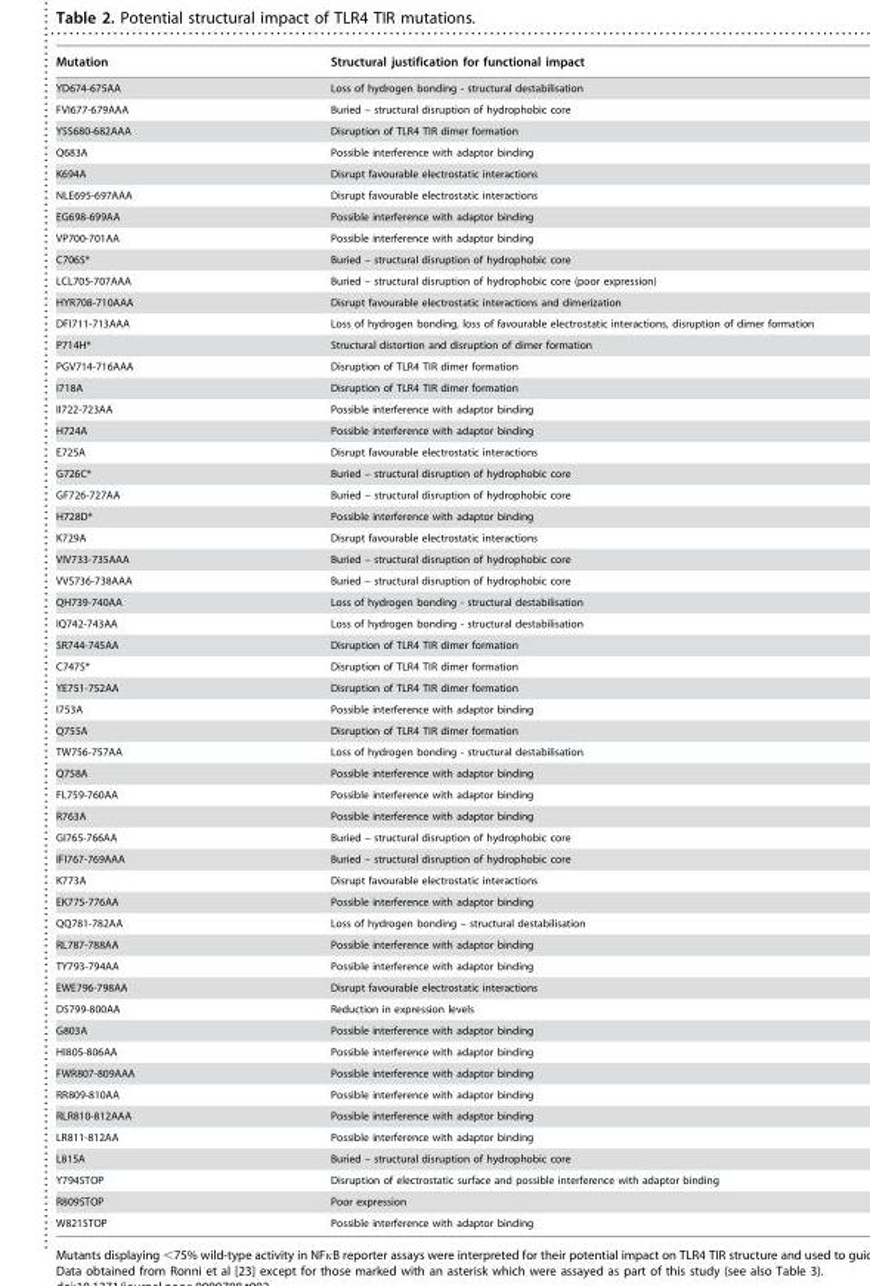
<table><thead><tr><td>Mutation</td><td>Structural justification for functional impact</td></tr></thead><tbody><tr><td>YD674-675AA</td><td>Loss of hydrogen bonding - structural destabilisation</td></tr><tr><td>FVI677-679AAA</td><td>Buried – structural disruption of hydrophobic core</td></tr><tr><td>YSS680-682AAA</td><td>Disruption of TLR4 TIR dimer formation</td></tr><tr><td>Q683A</td><td>Possible interference with adaptor binding</td></tr><tr><td>K694A</td><td>Disrupt favourable electrostatic interactions</td></tr><tr><td>NLE695-697AAA</td><td>Disrupt favourable electrostatic interactions</td></tr><tr><td>EG698-699AA</td><td>Possible interference with adaptor binding</td></tr><tr><td>VP700-701AA</td><td>Possible interference with adaptor binding</td></tr><tr><td>C706S*</td><td>Buried – structural disruption of hydrophobic core</td></tr><tr><td>LCL705-707AAA</td><td>Buried – structural disruption of hydrophobic core (poor expression)</td></tr><tr><td>HYR708-710AAA</td><td>Disrupt favourable electrostatic interactions and dimerization</td></tr><tr><td>DFI711-713AAA</td><td>Loss of hydrogen bonding, loss of favourable electrostatic interactions, disruption of dimer formation</td></tr><tr><td>P714H*</td><td>Structural distortion and disruption of dimer formation</td></tr><tr><td>PGV714-716AAA</td><td>Disruption of TLR4 TIR dimer formation</td></tr><tr><td>I718A</td><td>Disruption of TLR4 TIR dimer formation</td></tr><tr><td>II722-723AA</td><td>Possible interference with adaptor binding</td></tr><tr><td>H724A</td><td>Possible interference with adaptor binding</td></tr><tr><td>E725A</td><td>Disrupt favourable electrostatic interactions</td></tr><tr><td>G726C*</td><td>Buried – structural disruption of hydrophobic core</td></tr><tr><td>GF726-727AA</td><td>Buried – structural disruption of hydrophobic core</td></tr><tr><td>H728D*</td><td>Possible interference with adaptor binding</td></tr><tr><td>K729A</td><td>Disrupt favourable electrostatic interactions</td></tr><tr><td>VIV733-735AAA</td><td>Buried – structural disruption of hydrophobic core</td></tr><tr><td>VVS736-738AAA</td><td>Buried – structural disruption of hydrophobic core</td></tr><tr><td>QH739-740AA</td><td>Loss of hydrogen bonding - structural destabilisation</td></tr><tr><td>IQ742-743AA</td><td>Loss of hydrogen bonding - structural destabilisation</td></tr><tr><td>SR744-745AA</td><td>Disruption of TLR4 TIR dimer formation</td></tr><tr><td>C747S*</td><td>Disruption of TLR4 TIR dimer formation</td></tr><tr><td>YE751-752AA</td><td>Disruption of TLR4 TIR dimer formation</td></tr><tr><td>I753A</td><td>Possible interference with adaptor binding</td></tr><tr><td>Q755A</td><td>Disruption of TLR4 TIR dimer formation</td></tr><tr><td>TW756-757AA</td><td>Loss of hydrogen bonding - structural destabilisation</td></tr><tr><td>Q758A</td><td>Possible interference with adaptor binding</td></tr><tr><td>FL759-760AA</td><td>Possible interference with adaptor binding</td></tr><tr><td>R763A</td><td>Possible interference with adaptor binding</td></tr><tr><td>GI765-766AA</td><td>Buried – structural disruption of hydrophobic core</td></tr><tr><td>IFI767-769AAA</td><td>Buried – structural disruption of hydrophobic core</td></tr><tr><td>K773A</td><td>Disrupt favourable electrostatic interactions</td></tr><tr><td>EK775-776AA</td><td>Possible interference with adaptor binding</td></tr><tr><td>QQ781-782AA</td><td>Loss of hydrogen bonding – structural destabilisation</td></tr><tr><td>RL787-788AA</td><td>Possible interference with adaptor binding</td></tr><tr><td>TY793-794AA</td><td>Possible interference with adaptor binding</td></tr><tr><td>EWE796-798AA</td><td>Disrupt favourable electrostatic interactions</td></tr><tr><td>DS799-800AA</td><td>Reduction in expression levels</td></tr><tr><td>G803A</td><td>Possible interference with adaptor binding</td></tr><tr><td>HI805-806AA</td><td>Possible interference with adaptor binding</td></tr><tr><td>FWR807-809AAA</td><td>Possible interference with adaptor binding</td></tr><tr><td>RR809-810AA</td><td>Possible interference with adaptor binding</td></tr><tr><td>RLR810-812AAA</td><td>Possible interference with adaptor binding</td></tr><tr><td>LR811-812AA</td><td>Possible interference with adaptor binding</td></tr><tr><td>L815A</td><td>Buried – structural disruption of hydrophobic core</td></tr><tr><td>Y794STOP</td><td>Disruption of electrostatic surface and possible interference with adaptor binding</td></tr><tr><td>R809STOP</td><td>Poor expression</td></tr><tr><td>W821STOP</td><td>Possible interference with adaptor binding</td></tr></tbody></table>